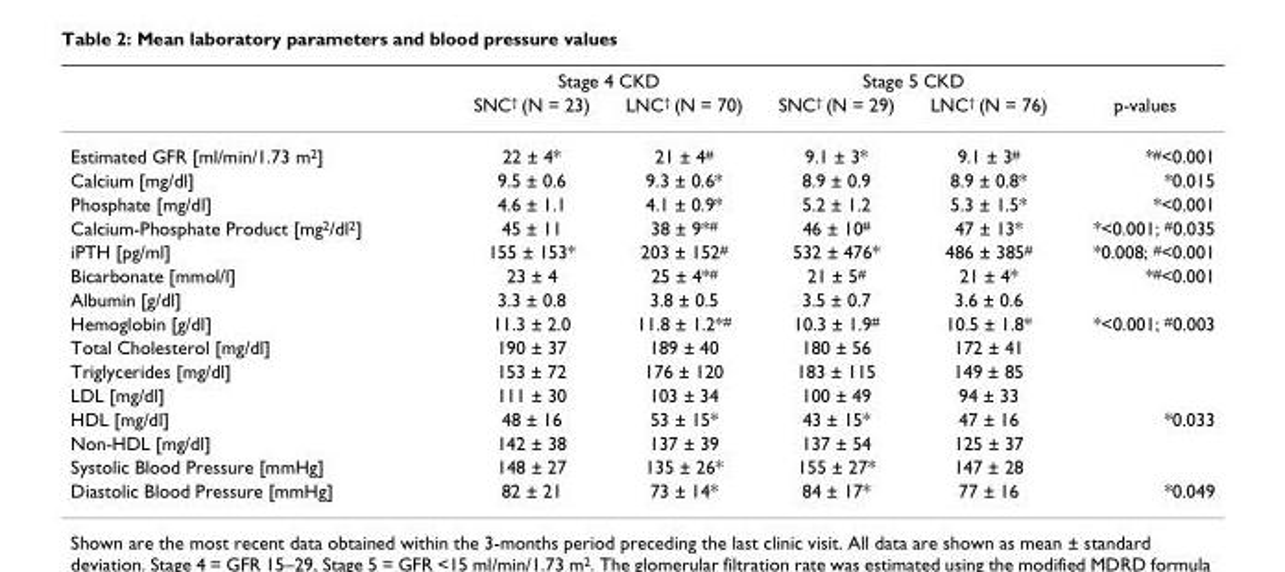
<table><thead><tr><td rowspan="2"></td><td colspan="2">Stage 4 CKD</td><td colspan="2">Stage 5 CKD</td><td rowspan="2">p-values</td></tr><tr><td>SNC<sup>†</sup> (N = 23)</td><td>LNC<sup>†</sup> (N = 70)</td><td>SNC<sup>†</sup> (N = 29)</td><td>LNC<sup>†</sup> (N = 76)</td></tr></thead><tbody><tr><td>Estimated GFR [ml/min/1.73 m<sup>2</sup>]</td><td>22 ± 4*</td><td>21 ± 4<sup>#</sup></td><td>9.1 ± 3*</td><td>9.1 ± 3<sup>#</sup></td><td>*<sup>#</sup>&lt;0.001</td></tr><tr><td>Calcium [mg/dl]</td><td>9.5 ± 0.6</td><td>9.3 ± 0.6*</td><td>8.9 ± 0.9</td><td>8.9 ± 0.8*</td><td>*0.015</td></tr><tr><td>Phosphate [mg/dl]</td><td>4.6 ± 1.1</td><td>4.1 ± 0.9*</td><td>5.2 ± 1.2</td><td>5.3 ± 1.5*</td><td>*&lt;0.001</td></tr><tr><td>Calcium-Phosphate Product [mg<sup>2</sup>/dl<sup>2</sup>]</td><td>45 ± 11</td><td>38 ± 9*<sup>#</sup></td><td>46 ± 10<sup>#</sup></td><td>47 ± 13*</td><td>*&lt;0.001; <sup>#</sup>0.035</td></tr><tr><td>iPTH [pg/ml]</td><td>155 ± 153*</td><td>203 ± 152<sup>#</sup></td><td>532 ± 476*</td><td>486 ± 385<sup>#</sup></td><td>*0.008; <sup>#</sup>&lt;0.001</td></tr><tr><td>Bicarbonate [mmol/l]</td><td>23 ± 4</td><td>25 ± 4*<sup>#</sup></td><td>21 ± 5<sup>#</sup></td><td>21 ± 4*</td><td>*<sup>#</sup>&lt;0.001</td></tr><tr><td>Albumin [g/dl]</td><td>3.3 ± 0.8</td><td>3.8 ± 0.5</td><td>3.5 ± 0.7</td><td>3.6 ± 0.6</td><td></td></tr><tr><td>Hemoglobin [g/dl]</td><td>11.3 ± 2.0</td><td>11.8 ± 1.2*<sup>#</sup></td><td>10.3 ± 1.9<sup>#</sup></td><td>10.5 ± 1.8*</td><td>*&lt;0.001; <sup>#</sup>0.003</td></tr><tr><td>Total Cholesterol [mg/dl]</td><td>190 ± 37</td><td>189 ± 40</td><td>180 ± 56</td><td>172 ± 41</td><td></td></tr><tr><td>Triglycerides [mg/dl]</td><td>153 ± 72</td><td>176 ± 120</td><td>183 ± 115</td><td>149 ± 85</td><td></td></tr><tr><td>LDL [mg/dl]</td><td>111 ± 30</td><td>103 ± 34</td><td>100 ± 49</td><td>94 ± 33</td><td></td></tr><tr><td>HDL [mg/dl]</td><td>48 ± 16</td><td>53 ± 15*</td><td>43 ± 15*</td><td>47 ± 16</td><td>*0.033</td></tr><tr><td>Non-HDL [mg/dl]</td><td>142 ± 38</td><td>137 ± 39</td><td>137 ± 54</td><td>125 ± 37</td><td></td></tr><tr><td>Systolic Blood Pressure [mmHg]</td><td>148 ± 27</td><td>135 ± 26*</td><td>155 ± 27*</td><td>147 ± 28</td><td></td></tr><tr><td>Diastolic Blood Pressure [mmHg]</td><td>82 ± 21</td><td>73 ± 14*</td><td>84 ± 17*</td><td>77 ± 16</td><td>*0.049</td></tr></tbody></table>